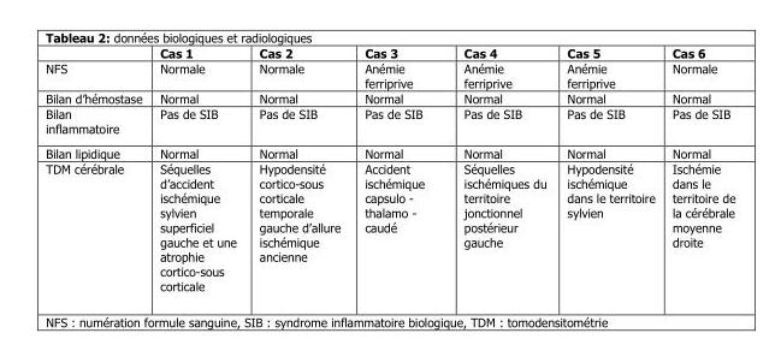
<table><thead><tr><td></td><td>Cas 1</td><td>Cas 2</td><td>Cas 3</td><td>Cas 4</td><td>Cas 5</td><td>Cas 6</td></tr></thead><tbody><tr><td>NFS</td><td>Normale</td><td>Normale</td><td>Anémie ferriprive</td><td>Anémie ferriprive</td><td>Anémie ferriprive</td><td>Normale</td></tr><tr><td>Bilan d’hémostase</td><td>Normal</td><td>Normal</td><td>Normal</td><td>Normal</td><td>Normal</td><td>Normal</td></tr><tr><td>Bilan inflammatoire</td><td>Pas de SIB</td><td>Pas de SIB</td><td>Pas de SIB</td><td>Pas de SIB</td><td>Pas de SIB</td><td>Pas de SIB</td></tr><tr><td>Bilan lipidique</td><td>Normal</td><td>Normal</td><td>Normal</td><td>Normal</td><td>Normal</td><td>Normal</td></tr><tr><td>TDM cérébrale</td><td>Séquelles d’accident ischémique sylvien superficiel gauche et une atrophie cortico-sous corticale</td><td>Hypodensité cortico-sous corticale temporale gauche d’allure ischémique ancienne</td><td>Accident ischémique capsulo - thalamo - caudé</td><td>Séquelles ischémiques du territoire jonctionnel postérieur gauche</td><td>Hypodensité ischémique dans le territoire sylvien</td><td>Ischémie dans le territoire de la cérébrale moyenne droite</td></tr></tbody></table>